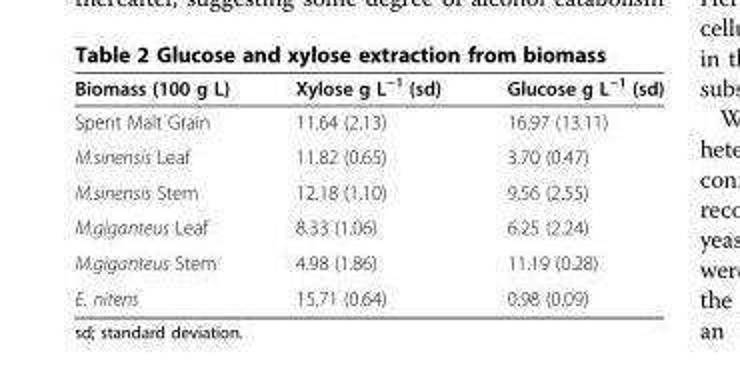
<table><thead><tr><td>Biomass (100 g L)</td><td>Xylose g L<sup>−1</sup> (sd)</td><td>Glucose g L<sup>−1</sup> (sd)</td></tr></thead><tbody><tr><td>Spent Malt Grain</td><td>11.64 (2.13)</td><td>16.97 (13.11)</td></tr><tr><td>M.sinensis Leaf</td><td>11.82 (0.65)</td><td>3.70 (0.47)</td></tr><tr><td>M.sinensis Stem</td><td>12.18 (1.10)</td><td>9.56 (2.55)</td></tr><tr><td>M.giganteus Leaf</td><td>8.33 (1.06)</td><td>6.25 (2.24)</td></tr><tr><td>M.giganteus Stem</td><td>4.98 (1.86)</td><td>11.19 (0.28)</td></tr><tr><td>E. nitens</td><td>15.71 (0.64)</td><td>0.98 (0.09)</td></tr></tbody></table>